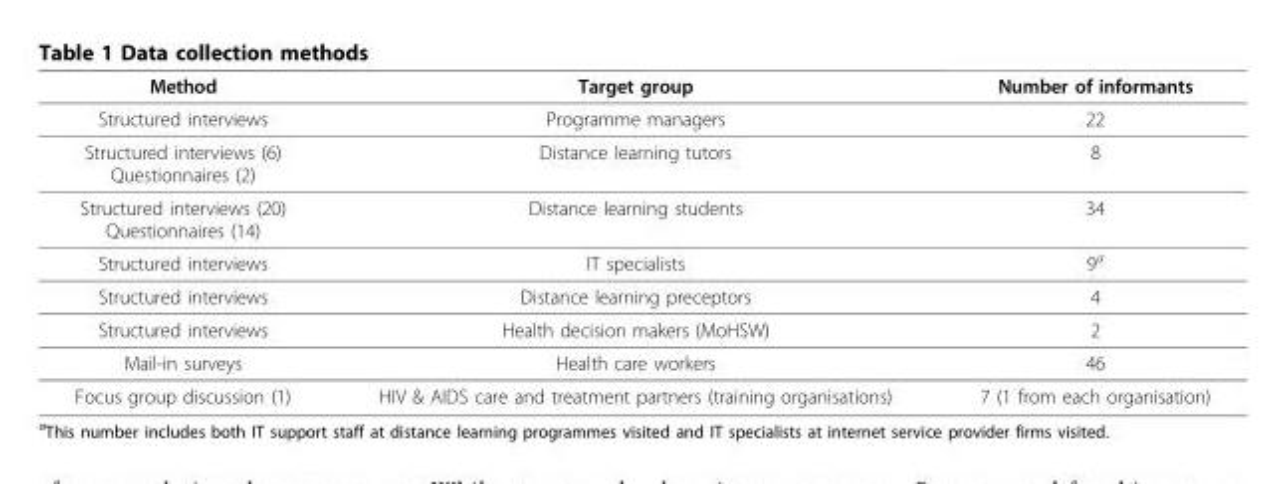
<table><thead><tr><td>Method</td><td>Target group</td><td>Number of informants</td></tr></thead><tbody><tr><td>Structured interviews</td><td>Programme managers</td><td>22</td></tr><tr><td>Structured interviews (6) Questionnaires (2)</td><td>Distance learning tutors</td><td>8</td></tr><tr><td>Structured interviews (20) Questionnaires (14)</td><td>Distance learning students</td><td>34</td></tr><tr><td>Structured interviews</td><td>IT specialists</td><td>9<sup>a</sup></td></tr><tr><td>Structured interviews</td><td>Distance learning preceptors</td><td>4</td></tr><tr><td>Structured interviews</td><td>Health decision makers (MoHSW)</td><td>2</td></tr><tr><td>Mail-in surveys</td><td>Health care workers</td><td>46</td></tr><tr><td>Focus group discussion (1)</td><td>HIV &amp; AIDS care and treatment partners (training organisations)</td><td>7 (1 from each organisation)</td></tr></tbody></table>